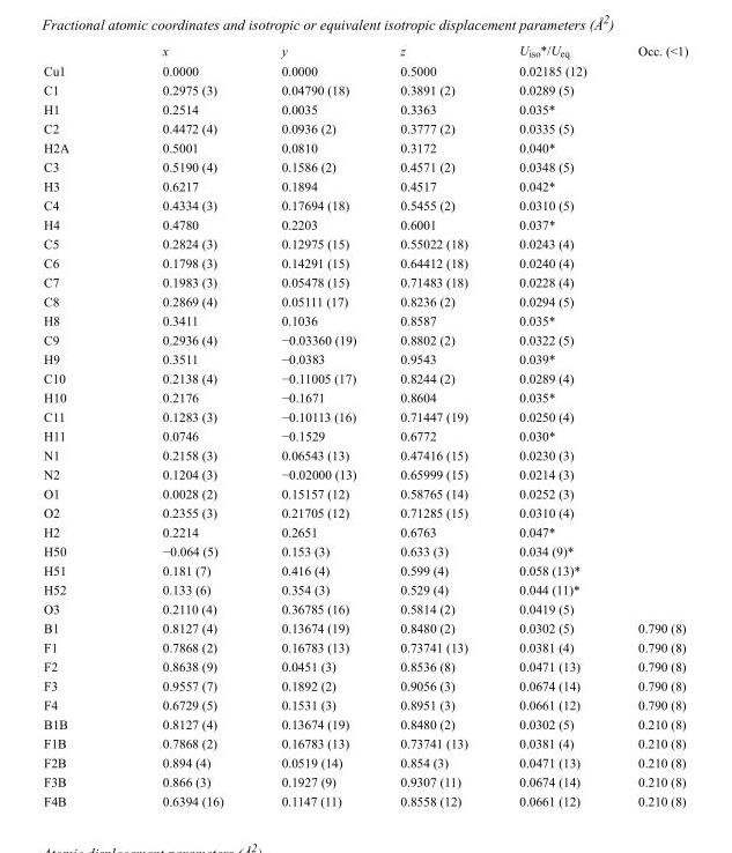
<table><thead><tr><td></td><td>x</td><td>y</td><td>z</td><td>U<sub>iso</sub>*/U<sub>eq</sub></td><td>Occ. (&lt;1)</td></tr></thead><tbody><tr><td>Cu1</td><td>0.0000</td><td>0.0000</td><td>0.5000</td><td>0.02185 (12)</td><td></td></tr><tr><td>C1</td><td>0.2975 (3)</td><td>0.04790 (18)</td><td>0.3891 (2)</td><td>0.0289 (5)</td><td></td></tr><tr><td>H1</td><td>0.2514</td><td>0.0035</td><td>0.3363</td><td>0.035*</td><td></td></tr><tr><td>C2</td><td>0.4472 (4)</td><td>0.0936 (2)</td><td>0.3777 (2)</td><td>0.0335 (5)</td><td></td></tr><tr><td>H2A</td><td>0.5001</td><td>0.0810</td><td>0.3172</td><td>0.040*</td><td></td></tr><tr><td>C3</td><td>0.5190 (4)</td><td>0.1586 (2)</td><td>0.4571 (2)</td><td>0.0348 (5)</td><td></td></tr><tr><td>H3</td><td>0.6217</td><td>0.1894</td><td>0.4517</td><td>0.042*</td><td></td></tr><tr><td>C4</td><td>0.4334 (3)</td><td>0.17694 (18)</td><td>0.5455 (2)</td><td>0.0310 (5)</td><td></td></tr><tr><td>H4</td><td>0.4780</td><td>0.2203</td><td>0.6001</td><td>0.037*</td><td></td></tr><tr><td>C5</td><td>0.2824 (3)</td><td>0.12975 (15)</td><td>0.55022 (18)</td><td>0.0243 (4)</td><td></td></tr><tr><td>C6</td><td>0.1798 (3)</td><td>0.14291 (15)</td><td>0.64412 (18)</td><td>0.0240 (4)</td><td></td></tr><tr><td>C7</td><td>0.1983 (3)</td><td>0.05478 (15)</td><td>0.71483 (18)</td><td>0.0228 (4)</td><td></td></tr><tr><td>C8</td><td>0.2869 (4)</td><td>0.05111 (17)</td><td>0.8236 (2)</td><td>0.0294 (5)</td><td></td></tr><tr><td>H8</td><td>0.3411</td><td>0.1036</td><td>0.8587</td><td>0.035*</td><td></td></tr><tr><td>C9</td><td>0.2936 (4)</td><td>−0.03360 (19)</td><td>0.8802 (2)</td><td>0.0322 (5)</td><td></td></tr><tr><td>H9</td><td>0.3511</td><td>−0.0383</td><td>0.9543</td><td>0.039*</td><td></td></tr><tr><td>C10</td><td>0.2138 (4)</td><td>−0.11005 (17)</td><td>0.8244 (2)</td><td>0.0289 (4)</td><td></td></tr><tr><td>H10</td><td>0.2176</td><td>−0.1671</td><td>0.8604</td><td>0.035*</td><td></td></tr><tr><td>C11</td><td>0.1283 (3)</td><td>−0.10113 (16)</td><td>0.71447 (19)</td><td>0.0250 (4)</td><td></td></tr><tr><td>H11</td><td>0.0746</td><td>−0.1529</td><td>0.6772</td><td>0.030*</td><td></td></tr><tr><td>N1</td><td>0.2158 (3)</td><td>0.06543 (13)</td><td>0.47416 (15)</td><td>0.0230 (3)</td><td></td></tr><tr><td>N2</td><td>0.1204 (3)</td><td>−0.02000 (13)</td><td>0.65999 (15)</td><td>0.0214 (3)</td><td></td></tr><tr><td>O1</td><td>0.0028 (2)</td><td>0.15157 (12)</td><td>0.58765 (14)</td><td>0.0252 (3)</td><td></td></tr><tr><td>O2</td><td>0.2355 (3)</td><td>0.21705 (12)</td><td>0.71285 (15)</td><td>0.0310 (4)</td><td></td></tr><tr><td>H2</td><td>0.2214</td><td>0.2651</td><td>0.6763</td><td>0.047*</td><td></td></tr><tr><td>H50</td><td>−0.064 (5)</td><td>0.153 (3)</td><td>0.633 (3)</td><td>0.034 (9)*</td><td></td></tr><tr><td>H51</td><td>0.181 (7)</td><td>0.416 (4)</td><td>0.599 (4)</td><td>0.058 (13)*</td><td></td></tr><tr><td>H52</td><td>0.133 (6)</td><td>0.354 (3)</td><td>0.529 (4)</td><td>0.044 (11)*</td><td></td></tr><tr><td>O3</td><td>0.2110 (4)</td><td>0.36785 (16)</td><td>0.5814 (2)</td><td>0.0419 (5)</td><td></td></tr><tr><td>B1</td><td>0.8127 (4)</td><td>0.13674 (19)</td><td>0.8480 (2)</td><td>0.0302 (5)</td><td>0.790 (8)</td></tr><tr><td>F1</td><td>0.7868 (2)</td><td>0.16783 (13)</td><td>0.73741 (13)</td><td>0.0381 (4)</td><td>0.790 (8)</td></tr><tr><td>F2</td><td>0.8638 (9)</td><td>0.0451 (3)</td><td>0.8536 (8)</td><td>0.0471 (13)</td><td>0.790 (8)</td></tr><tr><td>F3</td><td>0.9557 (7)</td><td>0.1892 (2)</td><td>0.9056 (3)</td><td>0.0674 (14)</td><td>0.790 (8)</td></tr><tr><td>F4</td><td>0.6729 (5)</td><td>0.1531 (3)</td><td>0.8951 (3)</td><td>0.0661 (12)</td><td>0.790 (8)</td></tr><tr><td>B1B</td><td>0.8127 (4)</td><td>0.13674 (19)</td><td>0.8480 (2)</td><td>0.0302 (5)</td><td>0.210 (8)</td></tr><tr><td>F1B</td><td>0.7868 (2)</td><td>0.16783 (13)</td><td>0.73741 (13)</td><td>0.0381 (4)</td><td>0.210 (8)</td></tr><tr><td>F2B</td><td>0.894 (4)</td><td>0.0519 (14)</td><td>0.854 (3)</td><td>0.0471 (13)</td><td>0.210 (8)</td></tr><tr><td>F3B</td><td>0.866 (3)</td><td>0.1927 (9)</td><td>0.9307 (11)</td><td>0.0674 (14)</td><td>0.210 (8)</td></tr><tr><td>F4B</td><td>0.6394 (16)</td><td>0.1147 (11)</td><td>0.8558 (12)</td><td>0.0661 (12)</td><td>0.210 (8)</td></tr></tbody></table>